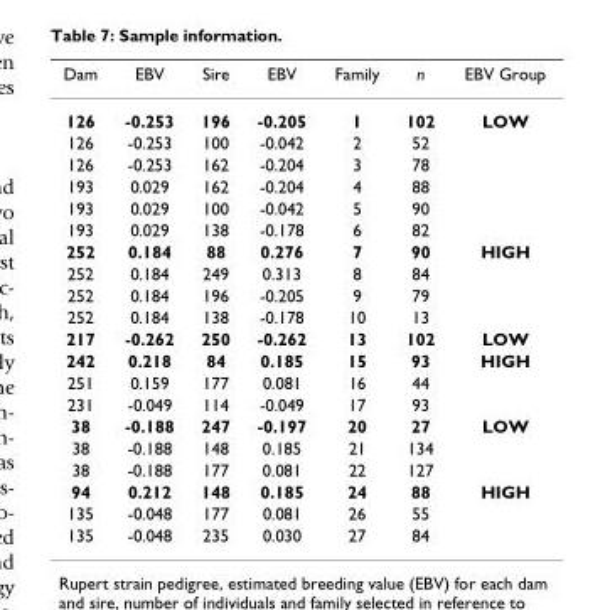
<table><thead><tr><td>Dam</td><td>EBV</td><td>Sire</td><td>EBV</td><td>Family</td><td>n</td><td>EBV Group</td></tr></thead><tbody><tr><td>126</td><td>-0.253</td><td>196</td><td>-0.205</td><td>1</td><td>102</td><td>LOW</td></tr><tr><td>126</td><td>-0.253</td><td>100</td><td>-0.042</td><td>2</td><td>52</td><td></td></tr><tr><td>126</td><td>-0.253</td><td>162</td><td>-0.204</td><td>3</td><td>78</td><td></td></tr><tr><td>193</td><td>0.029</td><td>162</td><td>-0.204</td><td>4</td><td>88</td><td></td></tr><tr><td>193</td><td>0.029</td><td>100</td><td>-0.042</td><td>5</td><td>90</td><td></td></tr><tr><td>193</td><td>0.029</td><td>138</td><td>-0.178</td><td>6</td><td>82</td><td></td></tr><tr><td>252</td><td>0.184</td><td>88</td><td>0.276</td><td>7</td><td>90</td><td>HIGH</td></tr><tr><td>252</td><td>0.184</td><td>249</td><td>0.313</td><td>8</td><td>84</td><td></td></tr><tr><td>252</td><td>0.184</td><td>196</td><td>-0.205</td><td>9</td><td>79</td><td></td></tr><tr><td>252</td><td>0.184</td><td>138</td><td>-0.178</td><td>10</td><td>13</td><td></td></tr><tr><td>217</td><td>-0.262</td><td>250</td><td>-0.262</td><td>13</td><td>102</td><td>LOW</td></tr><tr><td>242</td><td>0.218</td><td>84</td><td>0.185</td><td>15</td><td>93</td><td>HIGH</td></tr><tr><td>251</td><td>0.159</td><td>177</td><td>0.081</td><td>16</td><td>44</td><td></td></tr><tr><td>231</td><td>-0.049</td><td>114</td><td>-0.049</td><td>17</td><td>93</td><td></td></tr><tr><td>38</td><td>-0.188</td><td>247</td><td>-0.197</td><td>20</td><td>27</td><td>LOW</td></tr><tr><td>38</td><td>-0.188</td><td>148</td><td>0.185</td><td>21</td><td>134</td><td></td></tr><tr><td>38</td><td>-0.188</td><td>177</td><td>0.081</td><td>22</td><td>127</td><td></td></tr><tr><td>94</td><td>0.212</td><td>148</td><td>0.185</td><td>24</td><td>88</td><td>HIGH</td></tr><tr><td>135</td><td>-0.048</td><td>177</td><td>0.081</td><td>26</td><td>55</td><td></td></tr><tr><td>135</td><td>-0.048</td><td>235</td><td>0.030</td><td>27</td><td>84</td><td></td></tr></tbody></table>